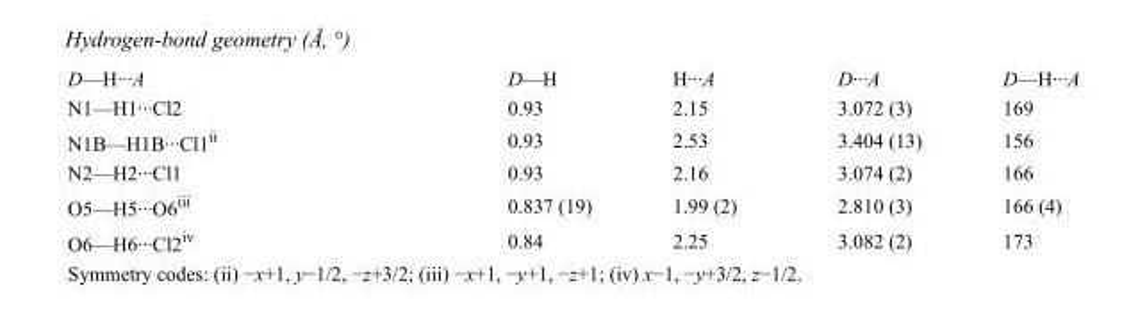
<table><tbody><tr><td>D—H···A</td><td>D—H</td><td>H···A</td><td>D···A</td><td>D—H···A</td></tr><tr><td>N1—H1···Cl2</td><td>0.93</td><td>2.15</td><td>3.072 (3)</td><td>169</td></tr><tr><td>N1B—H1B···Cl1<sup>ii</sup></td><td>0.93</td><td>2.53</td><td>3.404 (13)</td><td>156</td></tr><tr><td>N2—H2···Cl1</td><td>0.93</td><td>2.16</td><td>3.074 (2)</td><td>166</td></tr><tr><td>O5—H5···O6<sup>iii</sup></td><td>0.837 (19)</td><td>1.99 (2)</td><td>2.810 (3)</td><td>166 (4)</td></tr><tr><td>O6—H6···Cl2<sup>iv</sup></td><td>0.84</td><td>2.25</td><td>3.082 (2)</td><td>173</td></tr></tbody></table>